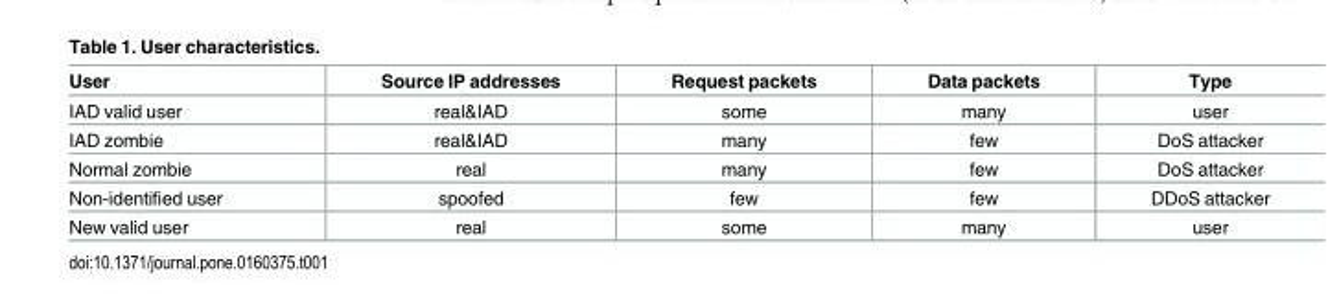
<table><thead><tr><td>User</td><td>Source IP addresses</td><td>Request packets</td><td>Data packets</td><td>Type</td></tr></thead><tbody><tr><td>IAD valid user</td><td>real&amp;IAD</td><td>some</td><td>many</td><td>user</td></tr><tr><td>IAD zombie</td><td>real&amp;IAD</td><td>many</td><td>few</td><td>DoS attacker</td></tr><tr><td>Normal zombie</td><td>real</td><td>many</td><td>few</td><td>DoS attacker</td></tr><tr><td>Non-identified user</td><td>spoofed</td><td>few</td><td>few</td><td>DDoS attacker</td></tr><tr><td>New valid user</td><td>real</td><td>some</td><td>many</td><td>user</td></tr></tbody></table>